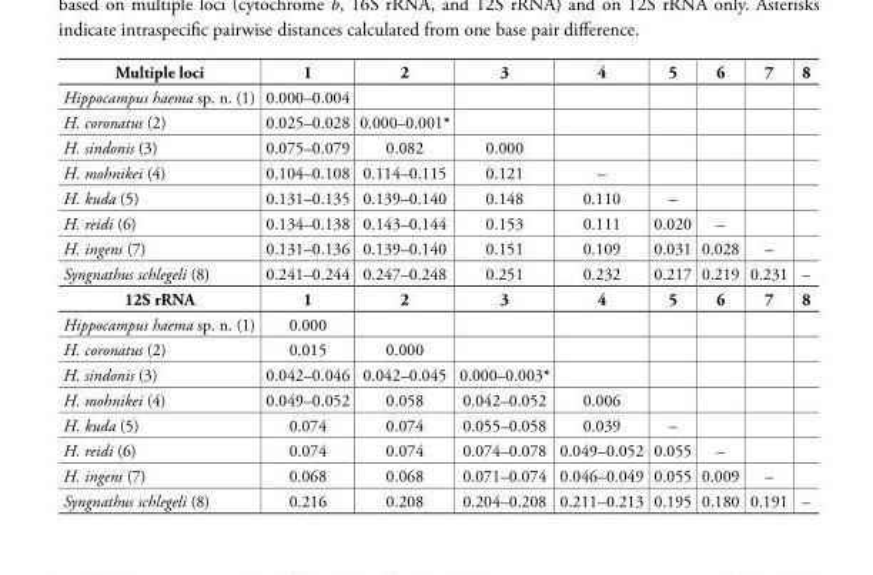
<table><thead><tr><td>Multiple loci</td><td>1</td><td>2</td><td>3</td><td>4</td><td>5</td><td>6</td><td>7</td><td>8</td></tr></thead><tbody><tr><td>Hippocampus haema sp. n. (1)</td><td>0.000–0.004</td><td></td><td></td><td></td><td></td><td></td><td></td><td></td></tr><tr><td>H. coronatus (2)</td><td>0.025–0.028</td><td>0.000–0.001*</td><td></td><td></td><td></td><td></td><td></td><td></td></tr><tr><td>H. sindonis (3)</td><td>0.075–0.079</td><td>0.082</td><td>0.000</td><td></td><td></td><td></td><td></td><td></td></tr><tr><td>H. mohnikei (4)</td><td>0.104–0.108</td><td>0.114–0.115</td><td>0.121</td><td>–</td><td></td><td></td><td></td><td></td></tr><tr><td>H. kuda (5)</td><td>0.131–0.135</td><td>0.139–0.140</td><td>0.148</td><td>0.110</td><td>–</td><td></td><td></td><td></td></tr><tr><td>H. reidi (6)</td><td>0.134–0.138</td><td>0.143–0.144</td><td>0.153</td><td>0.111</td><td>0.020</td><td>–</td><td></td><td></td></tr><tr><td>H. ingens (7)</td><td>0.131–0.136</td><td>0.139–0.140</td><td>0.151</td><td>0.109</td><td>0.031</td><td>0.028</td><td>–</td><td></td></tr><tr><td>Syngnathus schlegeli (8)</td><td>0.241–0.244</td><td>0.247–0.248</td><td>0.251</td><td>0.232</td><td>0.217</td><td>0.219</td><td>0.231</td><td>–</td></tr><tr><td>12S rRNA</td><td>1</td><td>2</td><td>3</td><td>4</td><td>5</td><td>6</td><td>7</td><td>8</td></tr><tr><td>Hippocampus haema sp. n. (1)</td><td>0.000</td><td></td><td></td><td></td><td></td><td></td><td></td><td></td></tr><tr><td>H. coronatus (2)</td><td>0.015</td><td>0.000</td><td></td><td></td><td></td><td></td><td></td><td></td></tr><tr><td>H. sindonis (3)</td><td>0.042–0.046</td><td>0.042–0.045</td><td>0.000–0.003*</td><td></td><td></td><td></td><td></td><td></td></tr><tr><td>H. mohnikei (4)</td><td>0.049–0.052</td><td>0.058</td><td>0.042–0.052</td><td>0.006</td><td></td><td></td><td></td><td></td></tr><tr><td>H. kuda (5)</td><td>0.074</td><td>0.074</td><td>0.055–0.058</td><td>0.039</td><td>–</td><td></td><td></td><td></td></tr><tr><td>H. reidi (6)</td><td>0.074</td><td>0.074</td><td>0.074–0.078</td><td>0.049–0.052</td><td>0.055</td><td>–</td><td></td><td></td></tr><tr><td>H. ingens (7)</td><td>0.068</td><td>0.068</td><td>0.071–0.074</td><td>0.046–0.049</td><td>0.055</td><td>0.009</td><td>–</td><td></td></tr><tr><td>Syngnathus schlegeli (8)</td><td>0.216</td><td>0.208</td><td>0.204–0.208</td><td>0.211–0.213</td><td>0.195</td><td>0.180</td><td>0.191</td><td>–</td></tr></tbody></table>